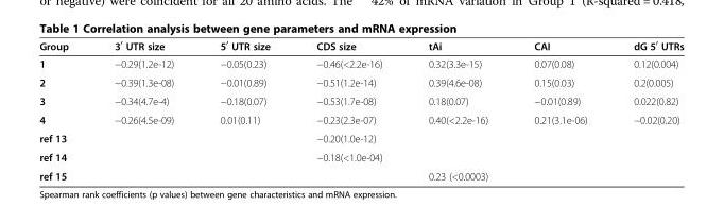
<table><thead><tr><td>Group</td><td>3<sup>′</sup> UTR size</td><td>5<sup>′</sup> UTR size</td><td>CDS size</td><td>tAi</td><td>CAI</td><td>dG 5<sup>′</sup> UTRs</td></tr></thead><tbody><tr><td>1</td><td>−0.29(1.2e-12)</td><td>−0.05(0.23)</td><td>−0.46(&lt;2.2e-16)</td><td>0.32(3.3e-15)</td><td>0.07(0.08)</td><td>0.12(0.004)</td></tr><tr><td>2</td><td>−0.39(1.3e-08)</td><td>−0.01(0.89)</td><td>−0.51(1.2e-14)</td><td>0.39(4.6e-08)</td><td>0.15(0.03)</td><td>0.2(0.005)</td></tr><tr><td>3</td><td>−0.34(4.7e-4)</td><td>−0.18(0.07)</td><td>−0.53(1.7e-08)</td><td>0.18(0.07)</td><td>−0.01(0.89)</td><td>0.022(0.82)</td></tr><tr><td>4</td><td>−0.26(4.5e-09)</td><td>0.01(0.11)</td><td>−0.23(2.3e-07)</td><td>0.40(&lt;2.2e-16)</td><td>0.21(3.1e-06)</td><td>−0.02(0.20)</td></tr><tr><td>ref 13</td><td></td><td></td><td>−0.20(1.0e-12)</td><td></td><td></td><td></td></tr><tr><td>ref 14</td><td></td><td></td><td>−0.18(&lt;1.0e-04)</td><td></td><td></td><td></td></tr><tr><td>ref 15</td><td></td><td></td><td></td><td>0.23 (&lt;0.0003)</td><td></td><td></td></tr></tbody></table>